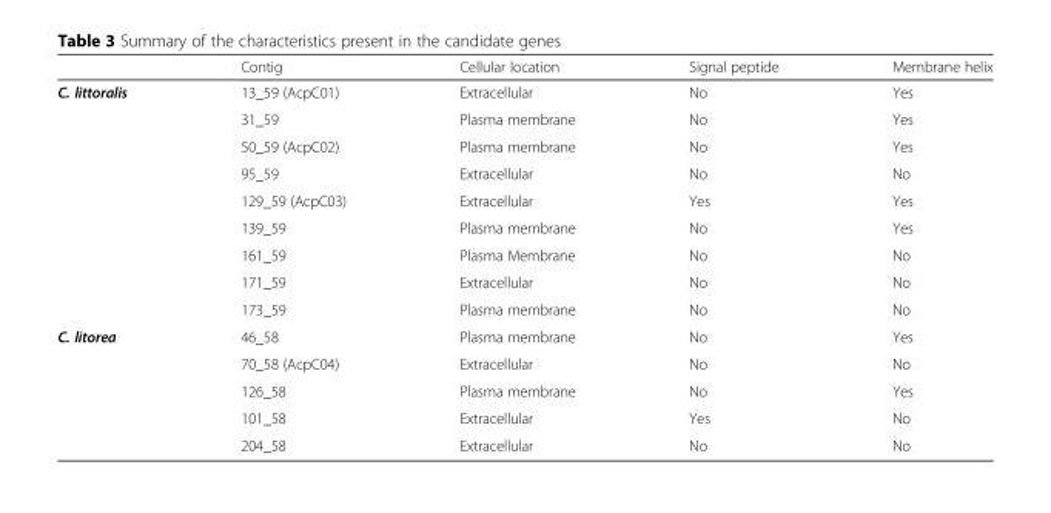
<table><thead><tr><td></td><td>Contig</td><td>Cellular location</td><td>Signal peptide</td><td>Membrane helix</td></tr></thead><tbody><tr><td rowspan="9">C. littoralis</td><td>13_59 (AcpC01)</td><td>Extracellular</td><td>No</td><td>Yes</td></tr><tr><td>31_59</td><td>Plasma membrane</td><td>No</td><td>Yes</td></tr><tr><td>50_59 (AcpC02)</td><td>Plasma membrane</td><td>No</td><td>Yes</td></tr><tr><td>95_59</td><td>Extracellular</td><td>No</td><td>No</td></tr><tr><td>129_59 (AcpC03)</td><td>Extracellular</td><td>Yes</td><td>Yes</td></tr><tr><td>139_59</td><td>Plasma membrane</td><td>No</td><td>Yes</td></tr><tr><td>161_59</td><td>Plasma Membrane</td><td>No</td><td>No</td></tr><tr><td>171_59</td><td>Extracellular</td><td>No</td><td>No</td></tr><tr><td>173_59</td><td>Plasma membrane</td><td>No</td><td>No</td></tr><tr><td rowspan="5">C. litorea</td><td>46_58</td><td>Plasma membrane</td><td>No</td><td>Yes</td></tr><tr><td>70_58 (AcpC04)</td><td>Extracellular</td><td>No</td><td>No</td></tr><tr><td>126_58</td><td>Plasma membrane</td><td>No</td><td>Yes</td></tr><tr><td>101_58</td><td>Extracellular</td><td>Yes</td><td>No</td></tr><tr><td>204_58</td><td>Extracellular</td><td>No</td><td>No</td></tr></tbody></table>